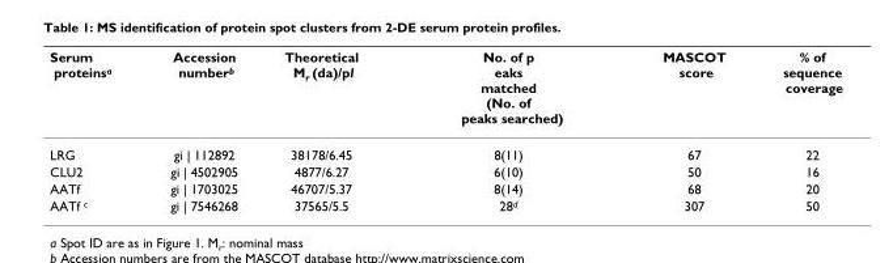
<table><thead><tr><td>Serum proteins<sup>a</sup></td><td>Accession number<sup>b</sup></td><td>Theoretical M<sub>r</sub> (da)/pI</td><td>No. of p eaks matched (No. of peaks searched)</td><td>MASCOT score</td><td>% of sequence coverage</td></tr></thead><tbody><tr><td>LRG</td><td>gi | 112892</td><td>38178/6.45</td><td>8(11)</td><td>67</td><td>22</td></tr><tr><td>CLU2</td><td>gi | 4502905</td><td>4877/6.27</td><td>6(10)</td><td>50</td><td>16</td></tr><tr><td>AATf</td><td>gi | 1703025</td><td>46707/5.37</td><td>8(14)</td><td>68</td><td>20</td></tr><tr><td>AATf <sup>c</sup></td><td>gi | 7546268</td><td>37565/5.5</td><td>28<sup>d</sup></td><td>307</td><td>50</td></tr></tbody></table>